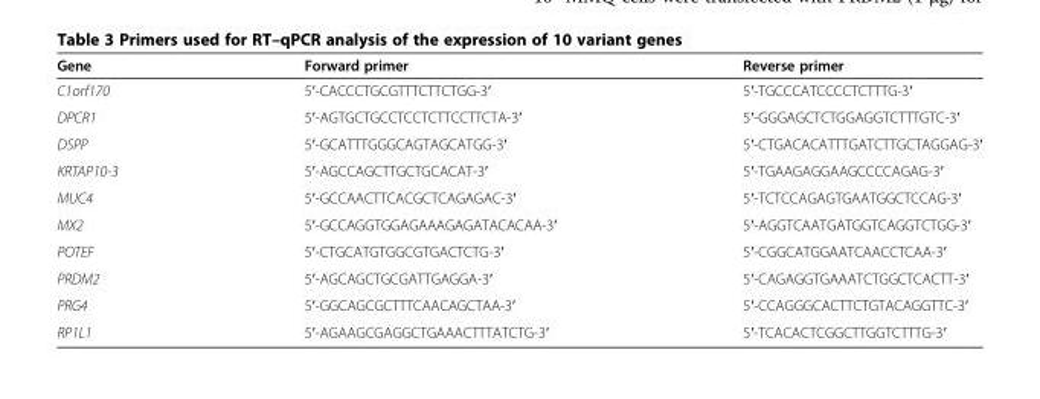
<table><thead><tr><td>Gene</td><td>Forward primer</td><td>Reverse primer</td></tr></thead><tbody><tr><td>C1orf170</td><td>5′-CACCCTGCGTTTCTTCTGG-3′</td><td>5′-TGCCCATCCCCTCTTTG-3′</td></tr><tr><td>DPCR1</td><td>5′-AGTGCTGCCTCCTCTTCCTTCTA-3′</td><td>5′-GGGAGCTCTGGAGGTCTTTGTC-3′</td></tr><tr><td>DSPP</td><td>5′-GCATTTGGGCAGTAGCATGG-3′</td><td>5′-CTGACACATTTGATCTTGCTAGGAG-3′</td></tr><tr><td>KRTAP10-3</td><td>5′-AGCCAGCTTGCTGCACAT-3′</td><td>5′-TGAAGAGGAAGCCCCAGAG-3′</td></tr><tr><td>MUC4</td><td>5′-GCCAACTTCACGCTCAGAGAC-3′</td><td>5′-TCTCCAGAGTGAATGGCTCCAG-3′</td></tr><tr><td>MX2</td><td>5′-GCCAGGTGGAGAAAGAGATACACAA-3′</td><td>5′-AGGTCAATGATGGTCAGGTCTGG-3′</td></tr><tr><td>POTEF</td><td>5′-CTGCATGTGGCGTGACTCTG-3′</td><td>5′-CGGCATGGAATCAACCTCAA-3′</td></tr><tr><td>PRDM2</td><td>5′-AGCAGCTGCGATTGAGGA-3′</td><td>5′-CAGAGGTGAAATCTGGCTCACTT-3′</td></tr><tr><td>PRG4</td><td>5′-GGCAGCGCTTTCAACAGCTAA-3′</td><td>5′-CCAGGGCACTTCTGTACAGGTTC-3′</td></tr><tr><td>RP1L1</td><td>5′-AGAAGCGAGGCTGAAACTTTATCTG-3′</td><td>5′-TCACACTCGGCTTGGTCTTTG-3′</td></tr></tbody></table>